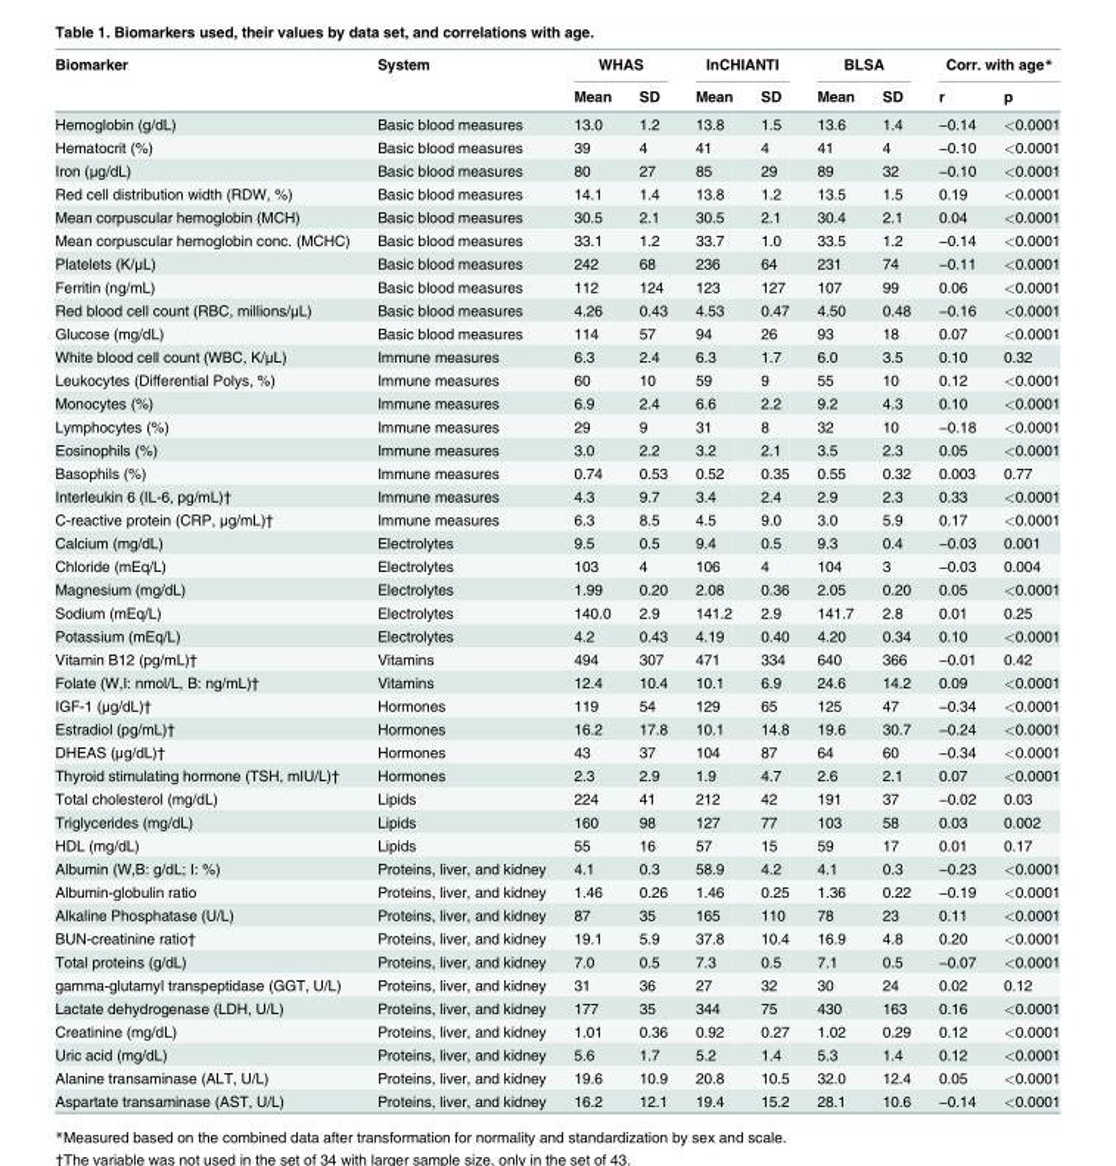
<table><thead><tr><td rowspan="2">Biomarker</td><td rowspan="2">System</td><td colspan="2">WHAS</td><td colspan="2">InCHIANTI</td><td colspan="2">BLSA</td><td colspan="2">Corr. with age*</td></tr><tr><td>Mean</td><td>SD</td><td>Mean</td><td>SD</td><td>Mean</td><td>SD</td><td>r</td><td>p</td></tr></thead><tbody><tr><td>Hemoglobin (g/dL)</td><td>Basic blood measures</td><td>13.0</td><td>1.2</td><td>13.8</td><td>1.5</td><td>13.6</td><td>1.4</td><td>−0.14</td><td>&lt;0.0001</td></tr><tr><td>Hematocrit (%)</td><td>Basic blood measures</td><td>39</td><td>4</td><td>41</td><td>4</td><td>41</td><td>4</td><td>−0.10</td><td>&lt;0.0001</td></tr><tr><td>Iron (μg/dL)</td><td>Basic blood measures</td><td>80</td><td>27</td><td>85</td><td>29</td><td>89</td><td>32</td><td>−0.10</td><td>&lt;0.0001</td></tr><tr><td>Red cell distribution width (RDW, %)</td><td>Basic blood measures</td><td>14.1</td><td>1.4</td><td>13.8</td><td>1.2</td><td>13.5</td><td>1.5</td><td>0.19</td><td>&lt;0.0001</td></tr><tr><td>Mean corpuscular hemoglobin (MCH)</td><td>Basic blood measures</td><td>30.5</td><td>2.1</td><td>30.5</td><td>2.1</td><td>30.4</td><td>2.1</td><td>0.04</td><td>&lt;0.0001</td></tr><tr><td>Mean corpuscular hemoglobin conc. (MCHC)</td><td>Basic blood measures</td><td>33.1</td><td>1.2</td><td>33.7</td><td>1.0</td><td>33.5</td><td>1.2</td><td>−0.14</td><td>&lt;0.0001</td></tr><tr><td>Platelets (K/μL)</td><td>Basic blood measures</td><td>242</td><td>68</td><td>236</td><td>64</td><td>231</td><td>74</td><td>−0.11</td><td>&lt;0.0001</td></tr><tr><td>Ferritin (ng/mL)</td><td>Basic blood measures</td><td>112</td><td>124</td><td>123</td><td>127</td><td>107</td><td>99</td><td>0.06</td><td>&lt;0.0001</td></tr><tr><td>Red blood cell count (RBC, millions/μL)</td><td>Basic blood measures</td><td>4.26</td><td>0.43</td><td>4.53</td><td>0.47</td><td>4.50</td><td>0.48</td><td>−0.16</td><td>&lt;0.0001</td></tr><tr><td>Glucose (mg/dL)</td><td>Basic blood measures</td><td>114</td><td>57</td><td>94</td><td>26</td><td>93</td><td>18</td><td>0.07</td><td>&lt;0.0001</td></tr><tr><td>White blood cell count (WBC, K/μL)</td><td>Immune measures</td><td>6.3</td><td>2.4</td><td>6.3</td><td>1.7</td><td>6.0</td><td>3.5</td><td>0.10</td><td>0.32</td></tr><tr><td>Leukocytes (Differential Polys, %)</td><td>Immune measures</td><td>60</td><td>10</td><td>59</td><td>9</td><td>55</td><td>10</td><td>0.12</td><td>&lt;0.0001</td></tr><tr><td>Monocytes (%)</td><td>Immune measures</td><td>6.9</td><td>2.4</td><td>6.6</td><td>2.2</td><td>9.2</td><td>4.3</td><td>0.10</td><td>&lt;0.0001</td></tr><tr><td>Lymphocytes (%)</td><td>Immune measures</td><td>29</td><td>9</td><td>31</td><td>8</td><td>32</td><td>10</td><td>−0.18</td><td>&lt;0.0001</td></tr><tr><td>Eosinophils (%)</td><td>Immune measures</td><td>3.0</td><td>2.2</td><td>3.2</td><td>2.1</td><td>3.5</td><td>2.3</td><td>0.05</td><td>&lt;0.0001</td></tr><tr><td>Basophils (%)</td><td>Immune measures</td><td>0.74</td><td>0.53</td><td>0.52</td><td>0.35</td><td>0.55</td><td>0.32</td><td>0.003</td><td>0.77</td></tr><tr><td>Interleukin 6 (IL-6, pg/mL)†</td><td>Immune measures</td><td>4.3</td><td>9.7</td><td>3.4</td><td>2.4</td><td>2.9</td><td>2.3</td><td>0.33</td><td>&lt;0.0001</td></tr><tr><td>C-reactive protein (CRP, μg/mL)†</td><td>Immune measures</td><td>6.3</td><td>8.5</td><td>4.5</td><td>9.0</td><td>3.0</td><td>5.9</td><td>0.17</td><td>&lt;0.0001</td></tr><tr><td>Calcium (mg/dL)</td><td>Electrolytes</td><td>9.5</td><td>0.5</td><td>9.4</td><td>0.5</td><td>9.3</td><td>0.4</td><td>−0.03</td><td>0.001</td></tr><tr><td>Chloride (mEq/L)</td><td>Electrolytes</td><td>103</td><td>4</td><td>106</td><td>4</td><td>104</td><td>3</td><td>−0.03</td><td>0.004</td></tr><tr><td>Magnesium (mg/dL)</td><td>Electrolytes</td><td>1.99</td><td>0.20</td><td>2.08</td><td>0.36</td><td>2.05</td><td>0.20</td><td>0.05</td><td>&lt;0.0001</td></tr><tr><td>Sodium (mEq/L)</td><td>Electrolytes</td><td>140.0</td><td>2.9</td><td>141.2</td><td>2.9</td><td>141.7</td><td>2.8</td><td>0.01</td><td>0.25</td></tr><tr><td>Potassium (mEq/L)</td><td>Electrolytes</td><td>4.2</td><td>0.43</td><td>4.19</td><td>0.40</td><td>4.20</td><td>0.34</td><td>0.10</td><td>&lt;0.0001</td></tr><tr><td>Vitamin B12 (pg/mL)†</td><td>Vitamins</td><td>494</td><td>307</td><td>471</td><td>334</td><td>640</td><td>366</td><td>−0.01</td><td>0.42</td></tr><tr><td>Folate (W,I: nmol/L, B: ng/mL)†</td><td>Vitamins</td><td>12.4</td><td>10.4</td><td>10.1</td><td>6.9</td><td>24.6</td><td>14.2</td><td>0.09</td><td>&lt;0.0001</td></tr><tr><td>IGF-1 (μg/dL)†</td><td>Hormones</td><td>119</td><td>54</td><td>129</td><td>65</td><td>125</td><td>47</td><td>−0.34</td><td>&lt;0.0001</td></tr><tr><td>Estradiol (pg/mL)†</td><td>Hormones</td><td>16.2</td><td>17.8</td><td>10.1</td><td>14.8</td><td>19.6</td><td>30.7</td><td>−0.24</td><td>&lt;0.0001</td></tr><tr><td>DHEAS (μg/dL)†</td><td>Hormones</td><td>43</td><td>37</td><td>104</td><td>87</td><td>64</td><td>60</td><td>−0.34</td><td>&lt;0.0001</td></tr><tr><td>Thyroid stimulating hormone (TSH, mIU/L)†</td><td>Hormones</td><td>2.3</td><td>2.9</td><td>1.9</td><td>4.7</td><td>2.6</td><td>2.1</td><td>0.07</td><td>&lt;0.0001</td></tr><tr><td>Total cholesterol (mg/dL)</td><td>Lipids</td><td>224</td><td>41</td><td>212</td><td>42</td><td>191</td><td>37</td><td>−0.02</td><td>0.03</td></tr><tr><td>Triglycerides (mg/dL)</td><td>Lipids</td><td>160</td><td>98</td><td>127</td><td>77</td><td>103</td><td>58</td><td>0.03</td><td>0.002</td></tr><tr><td>HDL (mg/dL)</td><td>Lipids</td><td>55</td><td>16</td><td>57</td><td>15</td><td>59</td><td>17</td><td>0.01</td><td>0.17</td></tr><tr><td>Albumin (W,B: g/dL; I: %)</td><td>Proteins, liver, and kidney</td><td>4.1</td><td>0.3</td><td>58.9</td><td>4.2</td><td>4.1</td><td>0.3</td><td>−0.23</td><td>&lt;0.0001</td></tr><tr><td>Albumin-globulin ratio</td><td>Proteins, liver, and kidney</td><td>1.46</td><td>0.26</td><td>1.46</td><td>0.25</td><td>1.36</td><td>0.22</td><td>−0.19</td><td>&lt;0.0001</td></tr><tr><td>Alkaline Phosphatase (U/L)</td><td>Proteins, liver, and kidney</td><td>87</td><td>35</td><td>165</td><td>110</td><td>78</td><td>23</td><td>0.11</td><td>&lt;0.0001</td></tr><tr><td>BUN-creatinine ratio†</td><td>Proteins, liver, and kidney</td><td>19.1</td><td>5.9</td><td>37.8</td><td>10.4</td><td>16.9</td><td>4.8</td><td>0.20</td><td>&lt;0.0001</td></tr><tr><td>Total proteins (g/dL)</td><td>Proteins, liver, and kidney</td><td>7.0</td><td>0.5</td><td>7.3</td><td>0.5</td><td>7.1</td><td>0.5</td><td>−0.07</td><td>&lt;0.0001</td></tr><tr><td>gamma-glutamyl transpeptidase (GGT, U/L)</td><td>Proteins, liver, and kidney</td><td>31</td><td>36</td><td>27</td><td>32</td><td>30</td><td>24</td><td>0.02</td><td>0.12</td></tr><tr><td>Lactate dehydrogenase (LDH, U/L)</td><td>Proteins, liver, and kidney</td><td>177</td><td>35</td><td>344</td><td>75</td><td>430</td><td>163</td><td>0.16</td><td>&lt;0.0001</td></tr><tr><td>Creatinine (mg/dL)</td><td>Proteins, liver, and kidney</td><td>1.01</td><td>0.36</td><td>0.92</td><td>0.27</td><td>1.02</td><td>0.29</td><td>0.12</td><td>&lt;0.0001</td></tr><tr><td>Uric acid (mg/dL)</td><td>Proteins, liver, and kidney</td><td>5.6</td><td>1.7</td><td>5.2</td><td>1.4</td><td>5.3</td><td>1.4</td><td>0.12</td><td>&lt;0.0001</td></tr><tr><td>Alanine transaminase (ALT, U/L)</td><td>Proteins, liver, and kidney</td><td>19.6</td><td>10.9</td><td>20.8</td><td>10.5</td><td>32.0</td><td>12.4</td><td>0.05</td><td>&lt;0.0001</td></tr><tr><td>Aspartate transaminase (AST, U/L)</td><td>Proteins, liver, and kidney</td><td>16.2</td><td>12.1</td><td>19.4</td><td>15.2</td><td>28.1</td><td>10.6</td><td>−0.14</td><td>&lt;0.0001</td></tr></tbody></table>